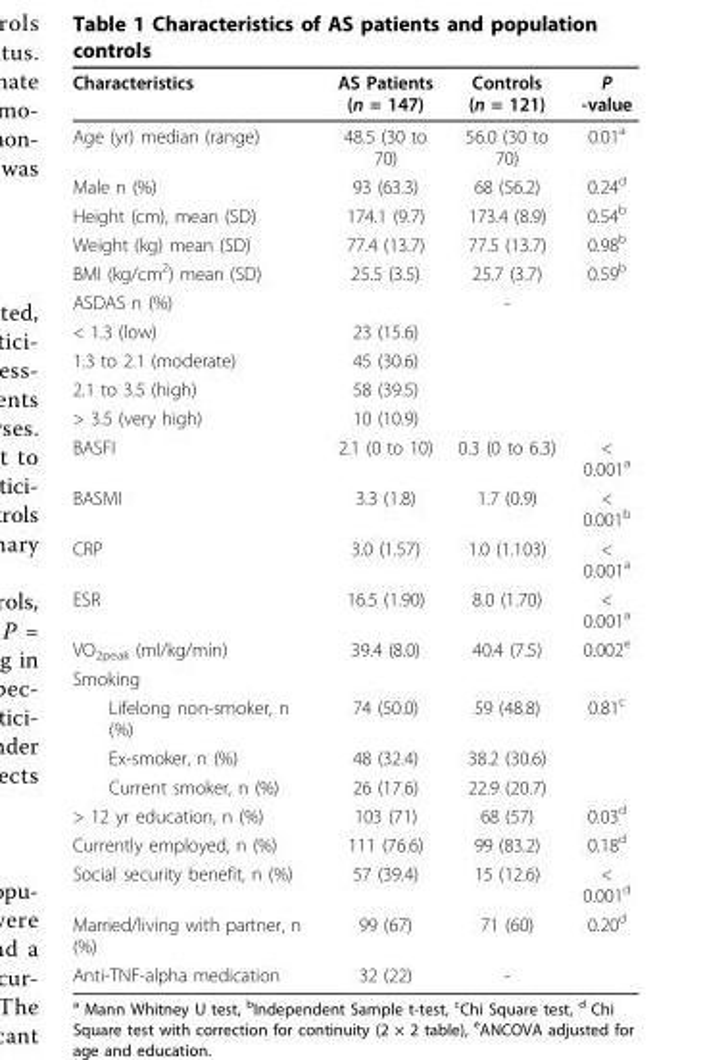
<table><thead><tr><td>Characteristics</td><td>AS Patients (n = 147)</td><td>Controls (n = 121)</td><td>P -value</td></tr></thead><tbody><tr><td>Age (yr) median (range)</td><td>48.5 (30 to 70)</td><td>56.0 (30 to 70)</td><td>0.01<sup>a</sup></td></tr><tr><td>Male n (%)</td><td>93 (63.3)</td><td>68 (56.2)</td><td>0.24<sup>d</sup></td></tr><tr><td>Height (cm), mean (SD)</td><td>174.1 (9.7)</td><td>173.4 (8.9)</td><td>0.54<sup>b</sup></td></tr><tr><td>Weight (kg) mean (SD)</td><td>77.4 (13.7)</td><td>77.5 (13.7)</td><td>0.98<sup>b</sup></td></tr><tr><td>BMI (kg/cm<sup>2</sup>) mean (SD)</td><td>25.5 (3.5)</td><td>25.7 (3.7)</td><td>0.59<sup>b</sup></td></tr><tr><td>ASDAS n (%)</td><td></td><td>-</td><td></td></tr><tr><td>&lt; 1.3 (low)</td><td>23 (15.6)</td><td></td><td></td></tr><tr><td>1.3 to 2.1 (moderate)</td><td>45 (30.6)</td><td></td><td></td></tr><tr><td>2.1 to 3.5 (high)</td><td>58 (39.5)</td><td></td><td></td></tr><tr><td>&gt; 3.5 (very high)</td><td>10 (10.9)</td><td></td><td></td></tr><tr><td>BASFI</td><td>2.1 (0 to 10)</td><td>0.3 (0 to 6.3)</td><td>&lt; 0.001<sup>a</sup></td></tr><tr><td>BASMI</td><td>3.3 (1.8)</td><td>1.7 (0.9)</td><td>&lt; 0.001<sup>b</sup></td></tr><tr><td>CRP</td><td>3.0 (1.57)</td><td>1.0 (1.103)</td><td>&lt; 0.001<sup>a</sup></td></tr><tr><td>ESR</td><td>16.5 (1.90)</td><td>8.0 (1.70)</td><td>&lt; 0.001<sup>a</sup></td></tr><tr><td>VO<sub>2peak</sub> (ml/kg/min)</td><td>39.4 (8.0)</td><td>40.4 (7.5)</td><td>0.002<sup>e</sup></td></tr><tr><td colspan="4">Smoking</td></tr><tr><td>Lifelong non-smoker, n (%)</td><td>74 (50.0)</td><td>59 (48.8)</td><td>0.81<sup>c</sup></td></tr><tr><td>Ex-smoker, n (%)</td><td>48 (32.4)</td><td>38.2 (30.6)</td><td></td></tr><tr><td>Current smoker, n (%)</td><td>26 (17.6)</td><td>22.9 (20.7)</td><td></td></tr><tr><td>&gt; 12 yr education, n (%)</td><td>103 (71)</td><td>68 (57)</td><td>0.03<sup>d</sup></td></tr><tr><td>Currently employed, n (%)</td><td>111 (76.6)</td><td>99 (83.2)</td><td>0.18<sup>d</sup></td></tr><tr><td>Social security benefit, n (%)</td><td>57 (39.4)</td><td>15 (12.6)</td><td>&lt; 0.001<sup>d</sup></td></tr><tr><td>Married/living with partner, n (%)</td><td>99 (67)</td><td>71 (60)</td><td>0.20<sup>d</sup></td></tr><tr><td>Anti-TNF-alpha medication</td><td>32 (22)</td><td>-</td><td></td></tr></tbody></table>